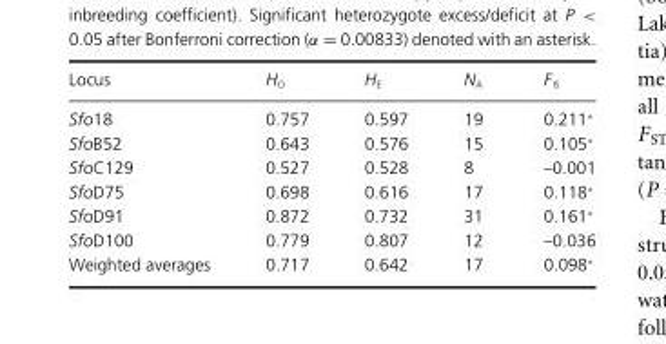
<table><thead><tr><td>Locus</td><td>H<sub>O</sub></td><td>H<sub>E</sub></td><td>N<sub>A</sub></td><td>F<sub>IS</sub></td></tr></thead><tbody><tr><td>Sfo18</td><td>0.757</td><td>0.597</td><td>19</td><td>0.211∗</td></tr><tr><td>SfoB52</td><td>0.643</td><td>0.576</td><td>15</td><td>0.105∗</td></tr><tr><td>SfoC129</td><td>0.527</td><td>0.528</td><td>8</td><td>–0.001</td></tr><tr><td>SfoD75</td><td>0.698</td><td>0.616</td><td>17</td><td>0.118∗</td></tr><tr><td>SfoD91</td><td>0.872</td><td>0.732</td><td>31</td><td>0.161∗</td></tr><tr><td>SfoD100</td><td>0.779</td><td>0.807</td><td>12</td><td>–0.036</td></tr><tr><td>Weighted averages</td><td>0.717</td><td>0.642</td><td>17</td><td>0.098∗</td></tr></tbody></table>